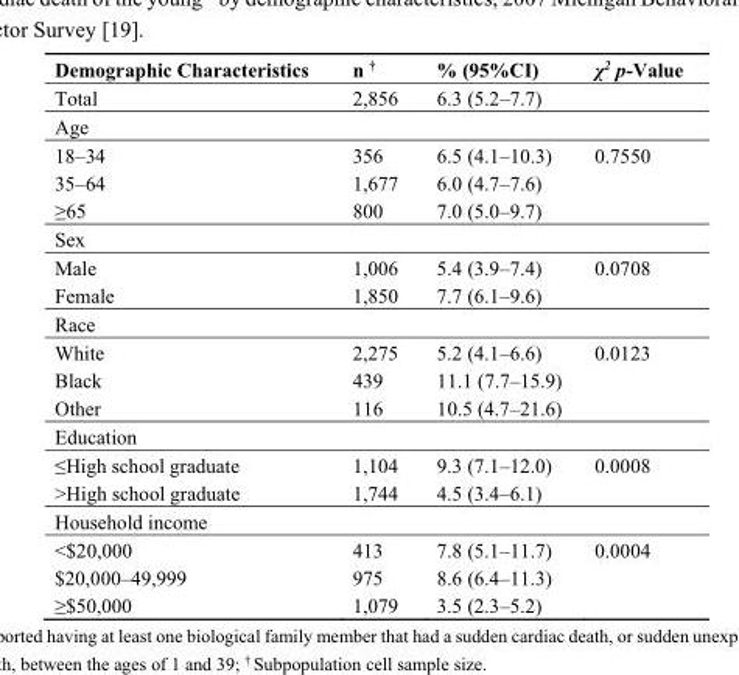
<table><thead><tr><td>Demographic Characteristics</td><td>n <sup>†</sup></td><td>% (95%CI)</td><td>χ<sup>2</sup> p-Value</td></tr></thead><tbody><tr><td>Total</td><td>2,856</td><td>6.3 (5.2–7.7)</td><td></td></tr><tr><td colspan="4">Age</td></tr><tr><td>18–34</td><td>356</td><td>6.5 (4.1–10.3)</td><td>0.7550</td></tr><tr><td>35–64</td><td>1,677</td><td>6.0 (4.7–7.6)</td><td></td></tr><tr><td>≥65</td><td>800</td><td>7.0 (5.0–9.7)</td><td></td></tr><tr><td colspan="4">Sex</td></tr><tr><td>Male</td><td>1,006</td><td>5.4 (3.9–7.4)</td><td>0.0708</td></tr><tr><td>Female</td><td>1,850</td><td>7.7 (6.1–9.6)</td><td></td></tr><tr><td colspan="4">Race</td></tr><tr><td>White</td><td>2,275</td><td>5.2 (4.1–6.6)</td><td>0.0123</td></tr><tr><td>Black</td><td>439</td><td>11.1 (7.7–15.9)</td><td></td></tr><tr><td>Other</td><td>116</td><td>10.5 (4.7–21.6)</td><td></td></tr><tr><td colspan="4">Education</td></tr><tr><td>≤High school graduate</td><td>1,104</td><td>9.3 (7.1–12.0)</td><td>0.0008</td></tr><tr><td>&gt;High school graduate</td><td>1,744</td><td>4.5 (3.4–6.1)</td><td></td></tr><tr><td colspan="4">Household income</td></tr><tr><td>&lt;$20,000</td><td>413</td><td>7.8 (5.1–11.7)</td><td>0.0004</td></tr><tr><td>$20,000–49,999</td><td>975</td><td>8.6 (6.4–11.3)</td><td></td></tr><tr><td>≥$50,000</td><td>1,079</td><td>3.5 (2.3–5.2)</td><td></td></tr></tbody></table>